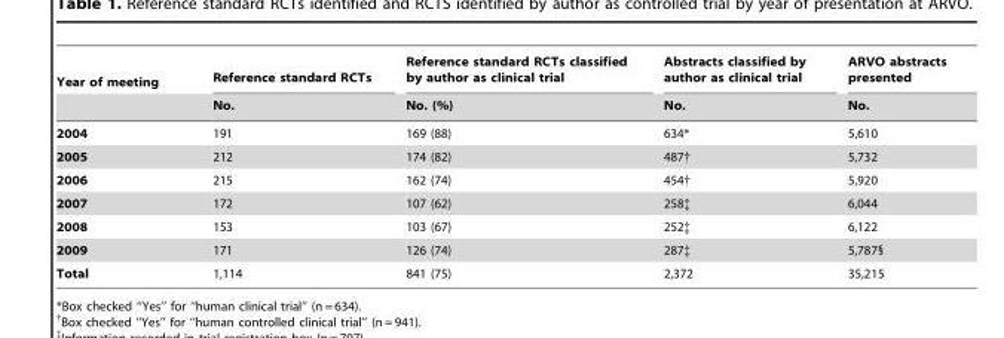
<table><thead><tr><td rowspan="2">Year of meeting</td><td rowspan="2">Reference standard RCTs No.</td><td rowspan="2">Reference standard RCTs classified by author as clinical trial No. (%)</td><td rowspan="2">Abstracts classified by author as clinical trial No.</td><td rowspan="2">ARVO abstracts presented No.</td></tr><tr></tr></thead><tbody><tr><td>2004</td><td>191</td><td>169 (88)</td><td>634*</td><td>5,610</td></tr><tr><td>2005</td><td>212</td><td>174 (82)</td><td>487†</td><td>5,732</td></tr><tr><td>2006</td><td>215</td><td>162 (74)</td><td>454†</td><td>5,920</td></tr><tr><td>2007</td><td>172</td><td>107 (62)</td><td>258‡</td><td>6,044</td></tr><tr><td>2008</td><td>153</td><td>103 (67)</td><td>252‡</td><td>6,122</td></tr><tr><td>2009</td><td>171</td><td>126 (74)</td><td>287‡</td><td>5,787§</td></tr><tr><td>Total</td><td>1,114</td><td>841 (75)</td><td>2,372</td><td>35,215</td></tr></tbody></table>